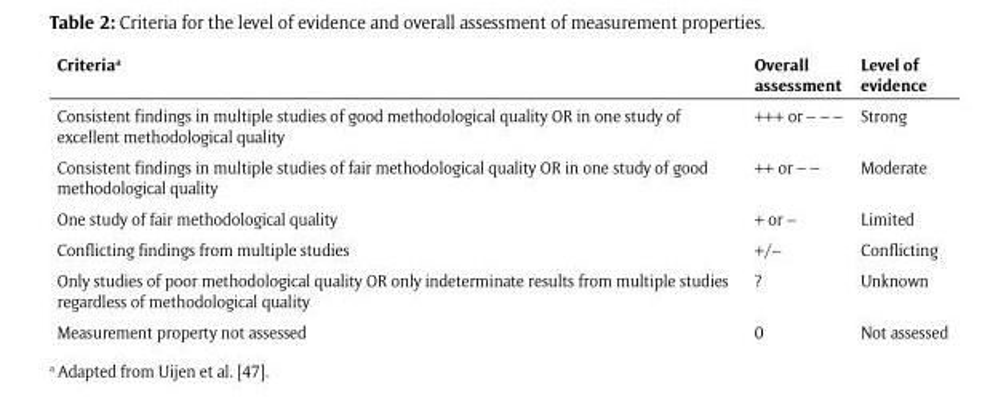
<table><thead><tr><td>Criteria<sup>a</sup></td><td>Overall assessment</td><td>Level of evidence</td></tr></thead><tbody><tr><td>Consistent findings in multiple studies of good methodological quality OR in one study of excellent methodological quality</td><td>+++ or – – –</td><td>Strong</td></tr><tr><td>Consistent findings in multiple studies of fair methodological quality OR in one study of good methodological quality</td><td>++ or – –</td><td>Moderate</td></tr><tr><td>One study of fair methodological quality</td><td>+ or –</td><td>Limited</td></tr><tr><td>Conflicting findings from multiple studies</td><td>+/–</td><td>Conflicting</td></tr><tr><td>Only studies of poor methodological quality OR only indeterminate results from multiple studies regardless of methodological quality</td><td>?</td><td>Unknown</td></tr><tr><td>Measurement property not assessed</td><td>0</td><td>Not assessed</td></tr></tbody></table>